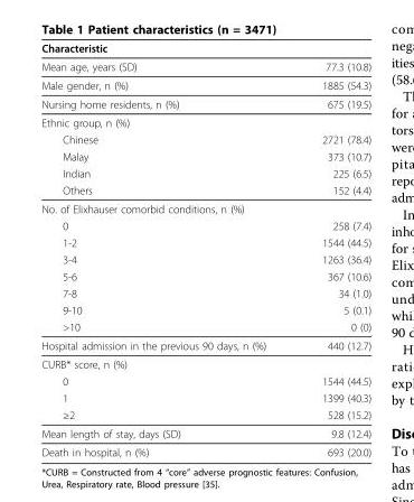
<table><thead><tr><td>Characteristic</td><td></td></tr></thead><tbody><tr><td>Mean age, years (SD)</td><td>77.3 (10.8)</td></tr><tr><td>Male gender, n (%)</td><td>1885 (54.3)</td></tr><tr><td>Nursing home residents, n (%)</td><td>675 (19.5)</td></tr><tr><td colspan="2">Ethnic group, n (%)</td></tr><tr><td>Chinese</td><td>2721 (78.4)</td></tr><tr><td>Malay</td><td>373 (10.7)</td></tr><tr><td>Indian</td><td>225 (6.5)</td></tr><tr><td>Others</td><td>152 (4.4)</td></tr><tr><td colspan="2">No. of Elixhauser comorbid conditions, n (%)</td></tr><tr><td>0</td><td>258 (7.4)</td></tr><tr><td>1-2</td><td>1544 (44.5)</td></tr><tr><td>3-4</td><td>1263 (36.4)</td></tr><tr><td>5-6</td><td>367 (10.6)</td></tr><tr><td>7-8</td><td>34 (1.0)</td></tr><tr><td>9-10</td><td>5 (0.1)</td></tr><tr><td>&gt;10</td><td>0 (0)</td></tr><tr><td>Hospital admission in the previous 90 days, n (%)</td><td>440 (12.7)</td></tr><tr><td colspan="2">CURB* score, n (%)</td></tr><tr><td>0</td><td>1544 (44.5)</td></tr><tr><td>1</td><td>1399 (40.3)</td></tr><tr><td>≥2</td><td>528 (15.2)</td></tr><tr><td>Mean length of stay, days (SD)</td><td>9.8 (12.4)</td></tr><tr><td>Death in hospital, n (%)</td><td>693 (20.0)</td></tr></tbody></table>